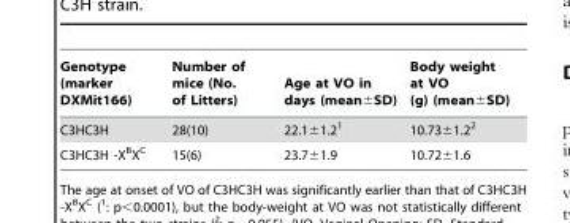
<table><thead><tr><td>Genotype (marker DXMit166)</td><td>Number of mice (No. of Litters)</td><td>Age at VO in days (mean±SD)</td><td>Body weight at VO (g) (mean±SD)</td></tr></thead><tbody><tr><td>C3HC3H</td><td>28(10)</td><td>22.1±1.2<sup>1</sup></td><td>10.73±1.2<sup>2</sup></td></tr><tr><td>C3HC3H -X<sup>B</sup>X<sup>C</sup></td><td>15(6)</td><td>23.7±1.9</td><td>10.72±1.6</td></tr></tbody></table>